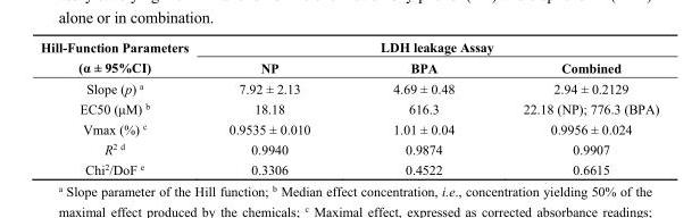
<table><thead><tr><td rowspan="2">Hill-Function Parameters (α ± 95%CI)</td><td colspan="3">LDH leakage Assay</td></tr><tr><td>NP</td><td>BPA</td><td>Combined</td></tr></thead><tbody><tr><td>Slope (p) <sup>a</sup></td><td>7.92 ± 2.13</td><td>4.69 ± 0.48</td><td>2.94 ± 0.2129</td></tr><tr><td>EC50 (μM) <sup>b</sup></td><td>18.18</td><td>616.3</td><td>22.18 (NP); 776.3 (BPA)</td></tr><tr><td>Vmax (%) <sup>c</sup></td><td>0.9535 ± 0.010</td><td>1.01 ± 0.04</td><td>0.9956 ± 0.024</td></tr><tr><td>R<sup>2 d</sup></td><td>0.9940</td><td>0.9874</td><td>0.9907</td></tr><tr><td>Chi<sup>2</sup>/DoF <sup>e</sup></td><td>0.3306</td><td>0.4522</td><td>0.6615</td></tr></tbody></table>